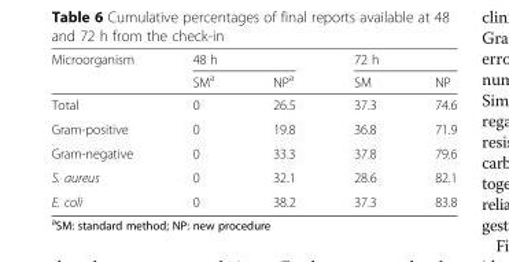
<table><thead><tr><td rowspan="2">Microorganism</td><td colspan="2">48 h</td><td colspan="2">72 h</td></tr><tr><td>SM<sup>a</sup></td><td>NP<sup>a</sup></td><td>SM</td><td>NP</td></tr></thead><tbody><tr><td>Total</td><td>0</td><td>26.5</td><td>37.3</td><td>74.6</td></tr><tr><td>Gram-positive</td><td>0</td><td>19.8</td><td>36.8</td><td>71.9</td></tr><tr><td>Gram-negative</td><td>0</td><td>33.3</td><td>37.8</td><td>79.6</td></tr><tr><td>S. aureus</td><td>0</td><td>32.1</td><td>28.6</td><td>82.1</td></tr><tr><td>E. coli</td><td>0</td><td>38.2</td><td>37.3</td><td>83.8</td></tr></tbody></table>